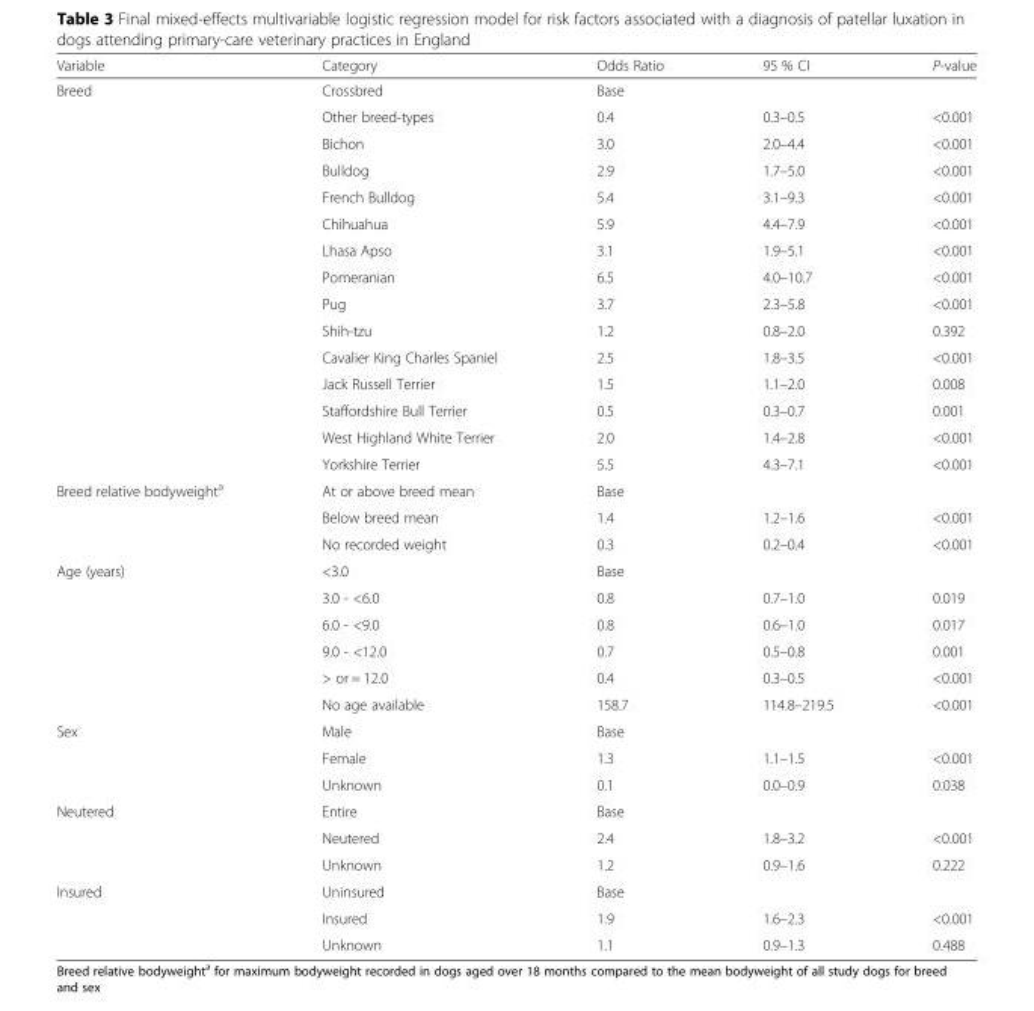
<table><thead><tr><td>Variable</td><td>Category</td><td>Odds Ratio</td><td>95 % CI</td><td>P-value</td></tr></thead><tbody><tr><td rowspan="15">Breed</td><td>Crossbred</td><td>Base</td><td></td><td></td></tr><tr><td>Other breed-types</td><td>0.4</td><td>0.3–0.5</td><td>&lt;0.001</td></tr><tr><td>Bichon</td><td>3.0</td><td>2.0–4.4</td><td>&lt;0.001</td></tr><tr><td>Bulldog</td><td>2.9</td><td>1.7–5.0</td><td>&lt;0.001</td></tr><tr><td>French Bulldog</td><td>5.4</td><td>3.1–9.3</td><td>&lt;0.001</td></tr><tr><td>Chihuahua</td><td>5.9</td><td>4.4–7.9</td><td>&lt;0.001</td></tr><tr><td>Lhasa Apso</td><td>3.1</td><td>1.9–5.1</td><td>&lt;0.001</td></tr><tr><td>Pomeranian</td><td>6.5</td><td>4.0–10.7</td><td>&lt;0.001</td></tr><tr><td>Pug</td><td>3.7</td><td>2.3–5.8</td><td>&lt;0.001</td></tr><tr><td>Shih-tzu</td><td>1.2</td><td>0.8–2.0</td><td>0.392</td></tr><tr><td>Cavalier King Charles Spaniel</td><td>2.5</td><td>1.8–3.5</td><td>&lt;0.001</td></tr><tr><td>Jack Russell Terrier</td><td>1.5</td><td>1.1–2.0</td><td>0.008</td></tr><tr><td>Staffordshire Bull Terrier</td><td>0.5</td><td>0.3–0.7</td><td>0.001</td></tr><tr><td>West Highland White Terrier</td><td>2.0</td><td>1.4–2.8</td><td>&lt;0.001</td></tr><tr><td>Yorkshire Terrier</td><td>5.5</td><td>4.3–7.1</td><td>&lt;0.001</td></tr><tr><td rowspan="3">Breed relative bodyweight<sup>a</sup></td><td>At or above breed mean</td><td>Base</td><td></td><td></td></tr><tr><td>Below breed mean</td><td>1.4</td><td>1.2–1.6</td><td>&lt;0.001</td></tr><tr><td>No recorded weight</td><td>0.3</td><td>0.2–0.4</td><td>&lt;0.001</td></tr><tr><td rowspan="6">Age (years)</td><td>&lt;3.0</td><td>Base</td><td></td><td></td></tr><tr><td>3.0 - &lt;6.0</td><td>0.8</td><td>0.7–1.0</td><td>0.019</td></tr><tr><td>6.0 - &lt;9.0</td><td>0.8</td><td>0.6–1.0</td><td>0.017</td></tr><tr><td>9.0 - &lt;12.0</td><td>0.7</td><td>0.5–0.8</td><td>0.001</td></tr><tr><td>&gt; or = 12.0</td><td>0.4</td><td>0.3–0.5</td><td>&lt;0.001</td></tr><tr><td>No age available</td><td>158.7</td><td>114.8–219.5</td><td>&lt;0.001</td></tr><tr><td rowspan="3">Sex</td><td>Male</td><td>Base</td><td></td><td></td></tr><tr><td>Female</td><td>1.3</td><td>1.1–1.5</td><td>&lt;0.001</td></tr><tr><td>Unknown</td><td>0.1</td><td>0.0–0.9</td><td>0.038</td></tr><tr><td rowspan="3">Neutered</td><td>Entire</td><td>Base</td><td></td><td></td></tr><tr><td>Neutered</td><td>2.4</td><td>1.8–3.2</td><td>&lt;0.001</td></tr><tr><td>Unknown</td><td>1.2</td><td>0.9–1.6</td><td>0.222</td></tr><tr><td rowspan="3">Insured</td><td>Uninsured</td><td>Base</td><td></td><td></td></tr><tr><td>Insured</td><td>1.9</td><td>1.6–2.3</td><td>&lt;0.001</td></tr><tr><td>Unknown</td><td>1.1</td><td>0.9–1.3</td><td>0.488</td></tr></tbody></table>